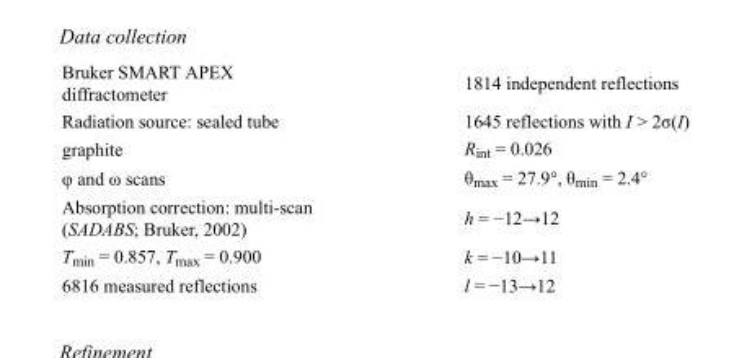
<table><tbody><tr><td>Bruker SMART APEX diffractometer</td><td>1814 independent reflections</td></tr><tr><td>Radiation source: sealed tube</td><td>1645 reflections with I &gt; 2σ(I)</td></tr><tr><td>graphite</td><td>R<sub>int</sub> = 0.026</td></tr><tr><td>φ and ω scans</td><td>θ<sub>max</sub> = 27.9°, θ<sub>min</sub> = 2.4°</td></tr><tr><td>Absorption correction: multi-scan (SADABS; Bruker, 2002)</td><td>h = −12→12</td></tr><tr><td>T<sub>min</sub> = 0.857, T<sub>max</sub> = 0.900</td><td>k = −10→11</td></tr><tr><td>6816 measured reflections</td><td>l = −13→12</td></tr></tbody></table>